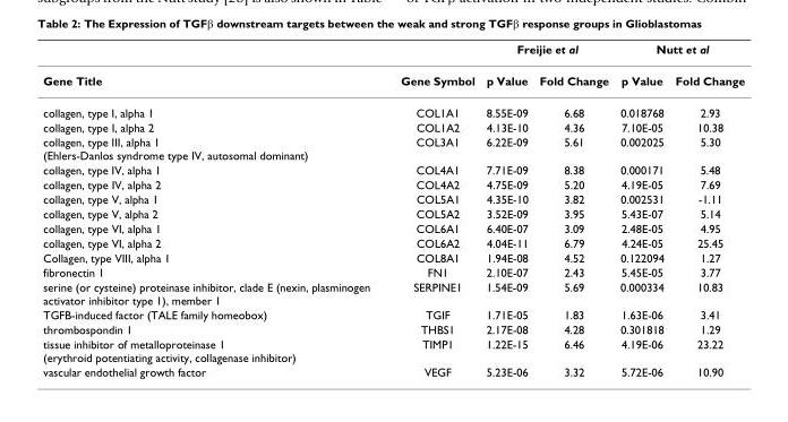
<table><thead><tr><td rowspan="2">Gene Title</td><td rowspan="2">Gene Symbol</td><td colspan="2">Freijie et al</td><td colspan="2">Nutt et al</td></tr><tr><td>p Value</td><td>Fold Change</td><td>p Value</td><td>Fold Change</td></tr></thead><tbody><tr><td>collagen, type I, alpha 1</td><td>COL1A1</td><td>8.55E-09</td><td>6.68</td><td>0.018768</td><td>2.93</td></tr><tr><td>collagen, type I, alpha 2</td><td>COL1A2</td><td>4.13E-10</td><td>4.36</td><td>7.10E-05</td><td>10.38</td></tr><tr><td>collagen, type III, alpha 1 (Ehlers-Danlos syndrome type IV, autosomal dominant)</td><td>COL3A1</td><td>6.22E-09</td><td>5.61</td><td>0.002025</td><td>5.30</td></tr><tr><td>collagen, type IV, alpha 1</td><td>COL4A1</td><td>7.71E-09</td><td>8.38</td><td>0.000171</td><td>5.48</td></tr><tr><td>collagen, type IV, alpha 2</td><td>COL4A2</td><td>4.75E-09</td><td>5.20</td><td>4.19E-05</td><td>7.69</td></tr><tr><td>collagen, type V, alpha 1</td><td>COL5A1</td><td>4.35E-10</td><td>3.82</td><td>0.002531</td><td>-1.11</td></tr><tr><td>collagen, type V, alpha 2</td><td>COL5A2</td><td>3.52E-09</td><td>3.95</td><td>5.43E-07</td><td>5.14</td></tr><tr><td>collagen, type VI, alpha 1</td><td>COL6A1</td><td>6.40E-07</td><td>3.09</td><td>2.48E-05</td><td>4.95</td></tr><tr><td>collagen, type VI, alpha 2</td><td>COL6A2</td><td>4.04E-11</td><td>6.79</td><td>4.24E-05</td><td>25.45</td></tr><tr><td>Collagen, type VIII, alpha 1</td><td>COL8A1</td><td>1.94E-08</td><td>4.52</td><td>0.122094</td><td>1.27</td></tr><tr><td>fibronectin 1</td><td>FN1</td><td>2.10E-07</td><td>2.43</td><td>5.45E-05</td><td>3.77</td></tr><tr><td>serine (or cysteine) proteinase inhibitor, clade E (nexin, plasminogen activator inhibitor type 1), member 1</td><td>SERPINE1</td><td>1.54E-09</td><td>5.69</td><td>0.000334</td><td>10.83</td></tr><tr><td>TGFB-induced factor (TALE family homeobox)</td><td>TGIF</td><td>1.71E-05</td><td>1.83</td><td>1.63E-06</td><td>3.41</td></tr><tr><td>thrombospondin 1</td><td>THBS1</td><td>2.17E-08</td><td>4.28</td><td>0.301818</td><td>1.29</td></tr><tr><td>tissue inhibitor of metalloproteinase 1 (erythroid potentiating activity, collagenase inhibitor)</td><td>TIMP1</td><td>1.22E-15</td><td>6.46</td><td>4.19E-06</td><td>23.22</td></tr><tr><td>vascular endothelial growth factor</td><td>VEGF</td><td>5.23E-06</td><td>3.32</td><td>5.72E-06</td><td>10.90</td></tr></tbody></table>